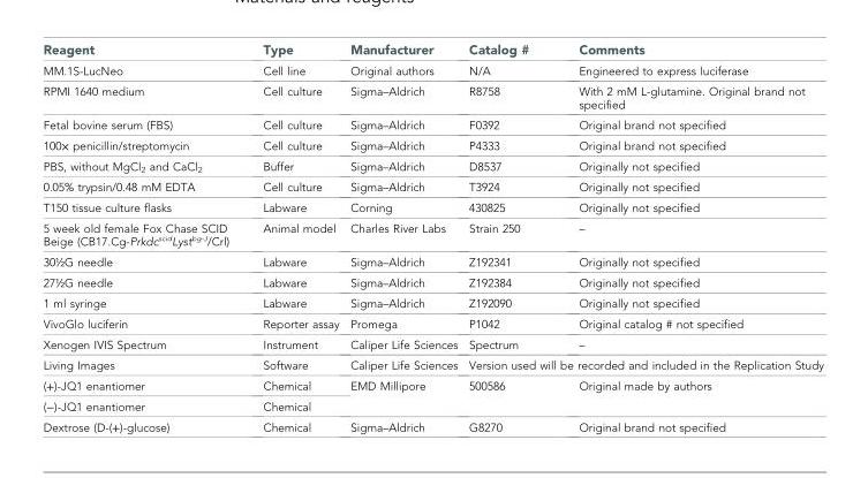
<table><thead><tr><td>Reagent</td><td>Type</td><td>Manufacturer</td><td>Catalog #</td><td>Comments</td></tr></thead><tbody><tr><td>MM.1S-LucNeo</td><td>Cell line</td><td>Original authors</td><td>N/A</td><td>Engineered to express luciferase</td></tr><tr><td>RPMI 1640 medium</td><td>Cell culture</td><td>Sigma–Aldrich</td><td>R8758</td><td>With 2 mM L-glutamine. Original brand not specified</td></tr><tr><td>Fetal bovine serum (FBS)</td><td>Cell culture</td><td>Sigma–Aldrich</td><td>F0392</td><td>Original brand not specified</td></tr><tr><td>100× penicillin/streptomycin</td><td>Cell culture</td><td>Sigma–Aldrich</td><td>P4333</td><td>Original brand not specified</td></tr><tr><td>PBS, without MgCl<sub>2</sub> and CaCl<sub>2</sub></td><td>Buffer</td><td>Sigma–Aldrich</td><td>D8537</td><td>Originally not specified</td></tr><tr><td>0.05% trypsin/0.48 mM EDTA</td><td>Cell culture</td><td>Sigma–Aldrich</td><td>T3924</td><td>Originally not specified</td></tr><tr><td>T150 tissue culture flasks</td><td>Labware</td><td>Corning</td><td>430825</td><td>Originally not specified</td></tr><tr><td>5 week old female Fox Chase SCID Beige (CB17.Cg-Prkdc<sup>scid</sup>Lyst<sup>bg-J</sup>/Crl)</td><td>Animal model</td><td>Charles River Labs</td><td>Strain 250</td><td>–</td></tr><tr><td>30½G needle</td><td>Labware</td><td>Sigma–Aldrich</td><td>Z192341</td><td>Originally not specified</td></tr><tr><td>27½G needle</td><td>Labware</td><td>Sigma–Aldrich</td><td>Z192384</td><td>Originally not specified</td></tr><tr><td>1 ml syringe</td><td>Labware</td><td>Sigma–Aldrich</td><td>Z192090</td><td>Originally not specified</td></tr><tr><td>VivoGlo luciferin</td><td>Reporter assay</td><td>Promega</td><td>P1042</td><td>Original catalog # not specified</td></tr><tr><td>Xenogen IVIS Spectrum</td><td>Instrument</td><td>Caliper Life Sciences</td><td>Spectrum</td><td>–</td></tr><tr><td>Living Images</td><td>Software</td><td>Caliper Life Sciences</td><td colspan="2">Version used will be recorded and included in the Replication Study</td></tr><tr><td>(+)-JQ1 enantiomer</td><td>Chemical</td><td rowspan="2">EMD Millipore</td><td rowspan="2">500586</td><td rowspan="2">Original made by authors</td></tr><tr><td>(−)-JQ1 enantiomer</td><td>Chemical</td></tr><tr><td>Dextrose (D-(+)-glucose)</td><td>Chemical</td><td>Sigma–Aldrich</td><td>G8270</td><td>Original brand not specified</td></tr></tbody></table>